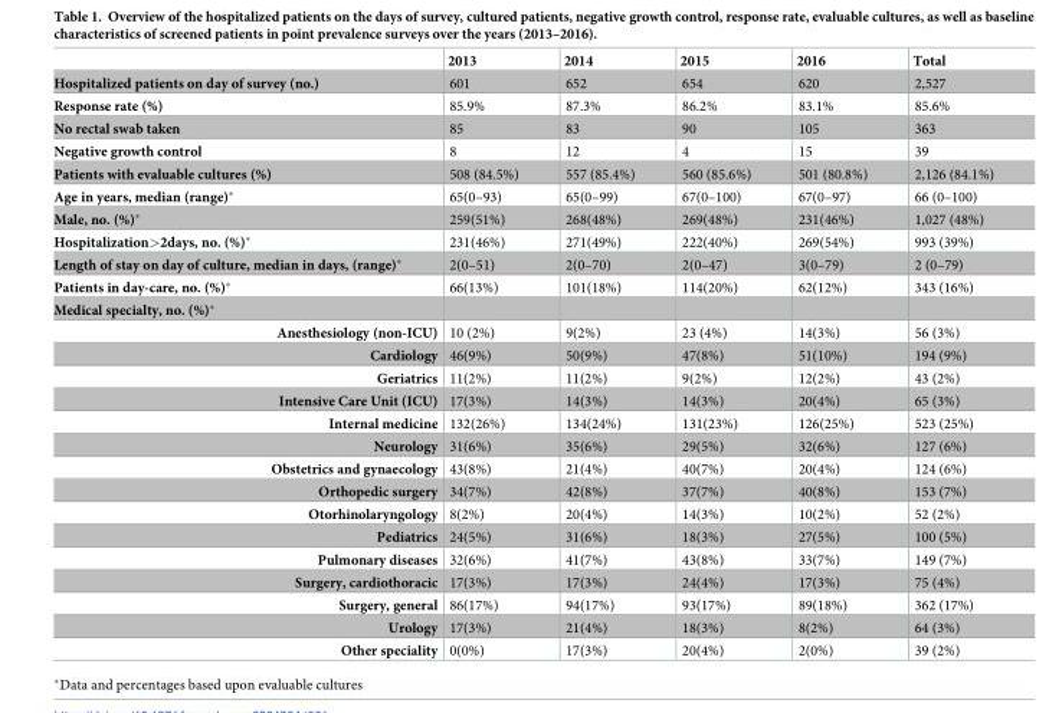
<table><thead><tr><td></td><td>2013</td><td>2014</td><td>2015</td><td>2016</td><td>Total</td></tr></thead><tbody><tr><td>Hospitalized patients on day of survey (no.)</td><td>601</td><td>652</td><td>654</td><td>620</td><td>2,527</td></tr><tr><td>Response rate (%)</td><td>85.9%</td><td>87.3%</td><td>86.2%</td><td>83.1%</td><td>85.6%</td></tr><tr><td>No rectal swab taken</td><td>85</td><td>83</td><td>90</td><td>105</td><td>363</td></tr><tr><td>Negative growth control</td><td>8</td><td>12</td><td>4</td><td>15</td><td>39</td></tr><tr><td>Patients with evaluable cultures (%)</td><td>508 (84.5%)</td><td>557 (85.4%)</td><td>560 (85.6%)</td><td>501 (80.8%)</td><td>2,126 (84.1%)</td></tr><tr><td>Age in years, median (range)*</td><td>65(0–93)</td><td>65(0–99)</td><td>67(0–100)</td><td>67(0–97)</td><td>66 (0–100)</td></tr><tr><td>Male, no. (%)*</td><td>259(51%)</td><td>268(48%)</td><td>269(48%)</td><td>231(46%)</td><td>1,027 (48%)</td></tr><tr><td>Hospitalization&gt;2days, no. (%)*</td><td>231(46%)</td><td>271(49%)</td><td>222(40%)</td><td>269(54%)</td><td>993 (39%)</td></tr><tr><td>Length of stay on day of culture, median in days, (range)*</td><td>2(0–51)</td><td>2(0–70)</td><td>2(0–47)</td><td>3(0–79)</td><td>2 (0–79)</td></tr><tr><td>Patients in day-care, no. (%)*</td><td>66(13%)</td><td>101(18%)</td><td>114(20%)</td><td>62(12%)</td><td>343 (16%)</td></tr><tr><td colspan="6">Medical specialty, no. (%)*</td></tr><tr><td>Anesthesiology (non-ICU)</td><td>10 (2%)</td><td>9(2%)</td><td>23 (4%)</td><td>14(3%)</td><td>56 (3%)</td></tr><tr><td>Cardiology</td><td>46(9%)</td><td>50(9%)</td><td>47(8%)</td><td>51(10%)</td><td>194 (9%)</td></tr><tr><td>Geriatrics</td><td>11(2%)</td><td>11(2%)</td><td>9(2%)</td><td>12(2%)</td><td>43 (2%)</td></tr><tr><td>Intensive Care Unit (ICU)</td><td>17(3%)</td><td>14(3%)</td><td>14(3%)</td><td>20(4%)</td><td>65 (3%)</td></tr><tr><td>Internal medicine</td><td>132(26%)</td><td>134(24%)</td><td>131(23%)</td><td>126(25%)</td><td>523 (25%)</td></tr><tr><td>Neurology</td><td>31(6%)</td><td>35(6%)</td><td>29(5%)</td><td>32(6%)</td><td>127 (6%)</td></tr><tr><td>Obstetrics and gynaecology</td><td>43(8%)</td><td>21(4%)</td><td>40(7%)</td><td>20(4%)</td><td>124 (6%)</td></tr><tr><td>Orthopedic surgery</td><td>34(7%)</td><td>42(8%)</td><td>37(7%)</td><td>40(8%)</td><td>153 (7%)</td></tr><tr><td>Otorhinolaryngology</td><td>8(2%)</td><td>20(4%)</td><td>14(3%)</td><td>10(2%)</td><td>52 (2%)</td></tr><tr><td>Pediatrics</td><td>24(5%)</td><td>31(6%)</td><td>18(3%)</td><td>27(5%)</td><td>100 (5%)</td></tr><tr><td>Pulmonary diseases</td><td>32(6%)</td><td>41(7%)</td><td>43(8%)</td><td>33(7%)</td><td>149 (7%)</td></tr><tr><td>Surgery, cardiothoracic</td><td>17(3%)</td><td>17(3%)</td><td>24(4%)</td><td>17(3%)</td><td>75 (4%)</td></tr><tr><td>Surgery, general</td><td>86(17%)</td><td>94(17%)</td><td>93(17%)</td><td>89(18%)</td><td>362 (17%)</td></tr><tr><td>Urology</td><td>17(3%)</td><td>21(4%)</td><td>18(3%)</td><td>8(2%)</td><td>64 (3%)</td></tr><tr><td>Other speciality</td><td>0(0%)</td><td>17(3%)</td><td>20(4%)</td><td>2(0%)</td><td>39 (2%)</td></tr></tbody></table>